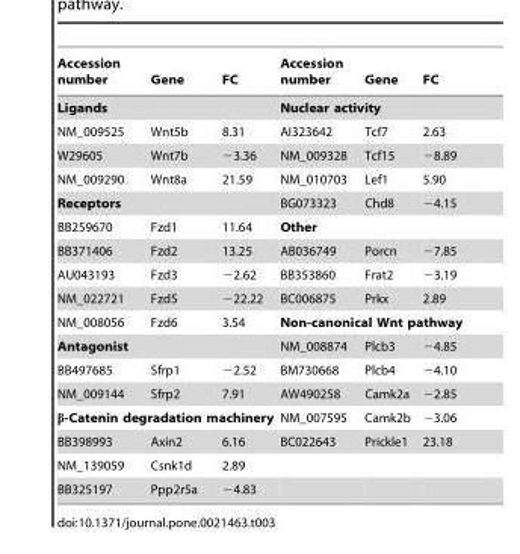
<table><thead><tr><td>Accession number</td><td>Gene</td><td>FC</td><td>Accession number</td><td>Gene</td><td>FC</td></tr></thead><tbody><tr><td colspan="3">Ligands</td><td colspan="3">Nuclear activity</td></tr><tr><td>NM_009525</td><td>Wnt5b</td><td>8.31</td><td>AI323642</td><td>Tcf7</td><td>2.63</td></tr><tr><td>W29605</td><td>Wnt7b</td><td>−3.36</td><td>NM_009328</td><td>Tcf15</td><td>−8.89</td></tr><tr><td>NM_009290</td><td>Wnt8a</td><td>21.59</td><td>NM_010703</td><td>Lef1</td><td>5.90</td></tr><tr><td colspan="3">Receptors</td><td>BG073323</td><td>Chd8</td><td>−4.15</td></tr><tr><td>BB259670</td><td>Fzd1</td><td>11.64</td><td colspan="3">Other</td></tr><tr><td>BB371406</td><td>Fzd2</td><td>13.25</td><td>AB036749</td><td>Porcn</td><td>−7.85</td></tr><tr><td>AU043193</td><td>Fzd3</td><td>−2.62</td><td>BB353860</td><td>Frat2</td><td>−3.19</td></tr><tr><td>NM_022721</td><td>Fzd5</td><td>−22.22</td><td>BC006875</td><td>Prkx</td><td>2.89</td></tr><tr><td>NM_008056</td><td>Fzd6</td><td>3.54</td><td colspan="3">Non-canonical Wnt pathway</td></tr><tr><td colspan="3">Antagonist</td><td>NM_008874</td><td>Plcb3</td><td>−4.85</td></tr><tr><td>BB497685</td><td>Sfrp1</td><td>−2.52</td><td>BM730668</td><td>Plcb4</td><td>−4.10</td></tr><tr><td>NM_009144</td><td>Sfrp2</td><td>7.91</td><td>AW490258</td><td>Camk2a</td><td>−2.85</td></tr><tr><td colspan="3">β-Catenin degradation machinery</td><td>NM_007595</td><td>Camk2b</td><td>−3.06</td></tr><tr><td>BB398993</td><td>Axin2</td><td>6.16</td><td>BC022643</td><td>Prickle1</td><td>23.18</td></tr><tr><td>NM_139059</td><td>Csnk1d</td><td>2.89</td><td></td><td></td><td></td></tr><tr><td>BB325197</td><td>Ppp2r5a</td><td>−4.83</td><td></td><td></td><td></td></tr></tbody></table>